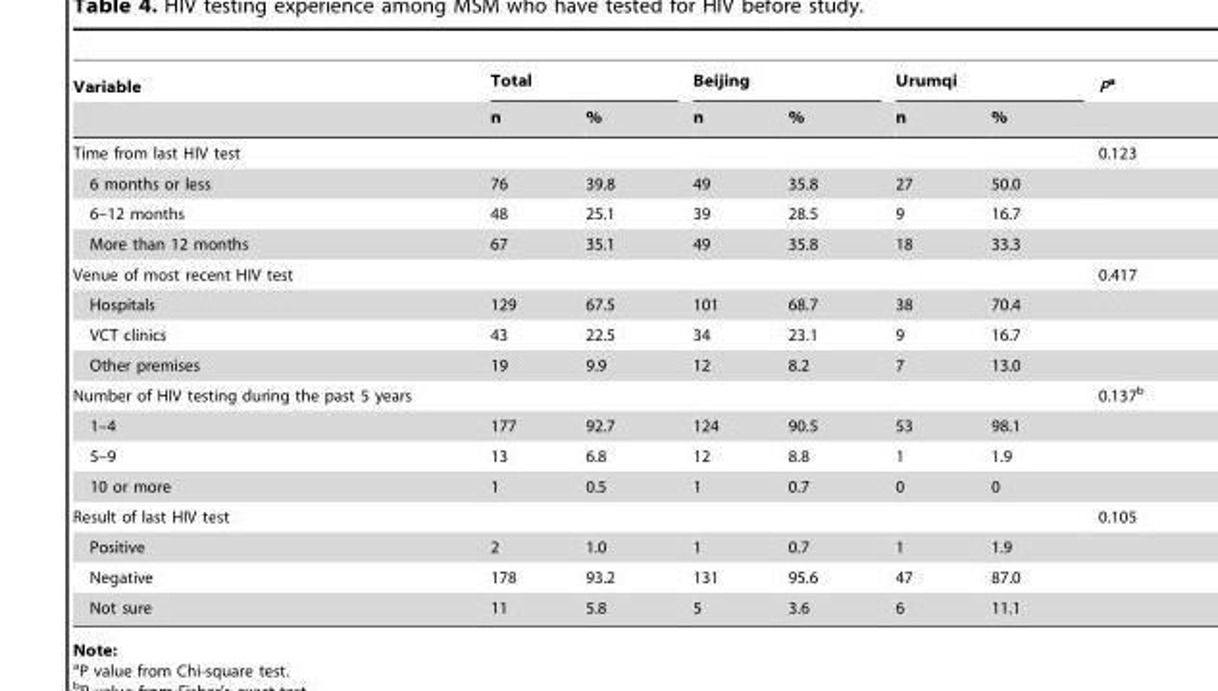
<table><thead><tr><td rowspan="2">Variable</td><td colspan="2">Total</td><td colspan="2">Beijing</td><td colspan="2">Urumqi</td><td rowspan="2">Pa</td></tr><tr><td>n</td><td>%</td><td>n</td><td>%</td><td>n</td><td>%</td></tr></thead><tbody><tr><td>Time from last HIV test</td><td></td><td></td><td></td><td></td><td></td><td></td><td>0.123</td></tr><tr><td>6 months or less</td><td>76</td><td>39.8</td><td>49</td><td>35.8</td><td>27</td><td>50.0</td><td></td></tr><tr><td>6–12 months</td><td>48</td><td>25.1</td><td>39</td><td>28.5</td><td>9</td><td>16.7</td><td></td></tr><tr><td>More than 12 months</td><td>67</td><td>35.1</td><td>49</td><td>35.8</td><td>18</td><td>33.3</td><td></td></tr><tr><td>Venue of most recent HIV test</td><td></td><td></td><td></td><td></td><td></td><td></td><td>0.417</td></tr><tr><td>Hospitals</td><td>129</td><td>67.5</td><td>101</td><td>68.7</td><td>38</td><td>70.4</td><td></td></tr><tr><td>VCT clinics</td><td>43</td><td>22.5</td><td>34</td><td>23.1</td><td>9</td><td>16.7</td><td></td></tr><tr><td>Other premises</td><td>19</td><td>9.9</td><td>12</td><td>8.2</td><td>7</td><td>13.0</td><td></td></tr><tr><td>Number of HIV testing during the past 5 years</td><td></td><td></td><td></td><td></td><td></td><td></td><td>0.137<sup>b</sup></td></tr><tr><td>1–4</td><td>177</td><td>92.7</td><td>124</td><td>90.5</td><td>53</td><td>98.1</td><td></td></tr><tr><td>5–9</td><td>13</td><td>6.8</td><td>12</td><td>8.8</td><td>1</td><td>1.9</td><td></td></tr><tr><td>10 or more</td><td>1</td><td>0.5</td><td>1</td><td>0.7</td><td>0</td><td>0</td><td></td></tr><tr><td>Result of last HIV test</td><td></td><td></td><td></td><td></td><td></td><td></td><td>0.105</td></tr><tr><td>Positive</td><td>2</td><td>1.0</td><td>1</td><td>0.7</td><td>1</td><td>1.9</td><td></td></tr><tr><td>Negative</td><td>178</td><td>93.2</td><td>131</td><td>95.6</td><td>47</td><td>87.0</td><td></td></tr><tr><td>Not sure</td><td>11</td><td>5.8</td><td>5</td><td>3.6</td><td>6</td><td>11.1</td><td></td></tr></tbody></table>